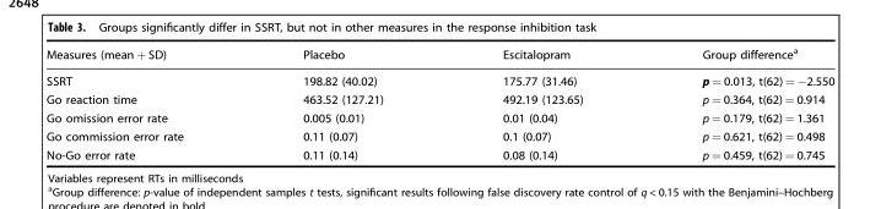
<table><thead><tr><td>Measures (mean + SD)</td><td>Placebo</td><td>Escitalopram</td><td>Group difference<sup>a</sup></td></tr></thead><tbody><tr><td>SSRT</td><td>198.82 (40.02)</td><td>175.77 (31.46)</td><td>p = 0.013, t(62) = −2.550</td></tr><tr><td>Go reaction time</td><td>463.52 (127.21)</td><td>492.19 (123.65)</td><td>p = 0.364, t(62) = 0.914</td></tr><tr><td>Go omission error rate</td><td>0.005 (0.01)</td><td>0.01 (0.04)</td><td>p = 0.179, t(62) = 1.361</td></tr><tr><td>Go commission error rate</td><td>0.11 (0.07)</td><td>0.1 (0.07)</td><td>p = 0.621, t(62) = 0.498</td></tr><tr><td>No-Go error rate</td><td>0.11 (0.14)</td><td>0.08 (0.14)</td><td>p = 0.459, t(62) = 0.745</td></tr></tbody></table>